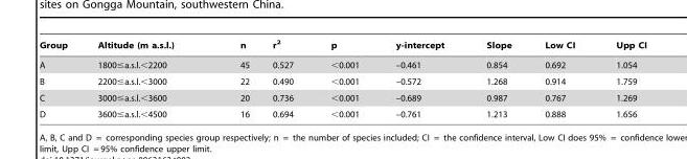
<table><thead><tr><td>Group</td><td>Altitude (m a.s.l.)</td><td>n</td><td>r<sup>2</sup></td><td>p</td><td>y-intercept</td><td>Slope</td><td>Low CI</td><td>Upp CI</td></tr></thead><tbody><tr><td>A</td><td>1800≤a.s.l.&lt;2200</td><td>45</td><td>0.527</td><td>&lt;0.001</td><td>–0.461</td><td>0.854</td><td>0.692</td><td>1.054</td></tr><tr><td>B</td><td>2200≤a.s.l.&lt;3000</td><td>22</td><td>0.490</td><td>&lt;0.001</td><td>–0.572</td><td>1.268</td><td>0.914</td><td>1.759</td></tr><tr><td>C</td><td>3000≤a.s.l.&lt;3600</td><td>20</td><td>0.736</td><td>&lt;0.001</td><td>–0.689</td><td>0.987</td><td>0.767</td><td>1.269</td></tr><tr><td>D</td><td>3600≤a.s.l.&lt;4500</td><td>16</td><td>0.694</td><td>&lt;0.001</td><td>–0.761</td><td>1.213</td><td>0.888</td><td>1.656</td></tr></tbody></table>